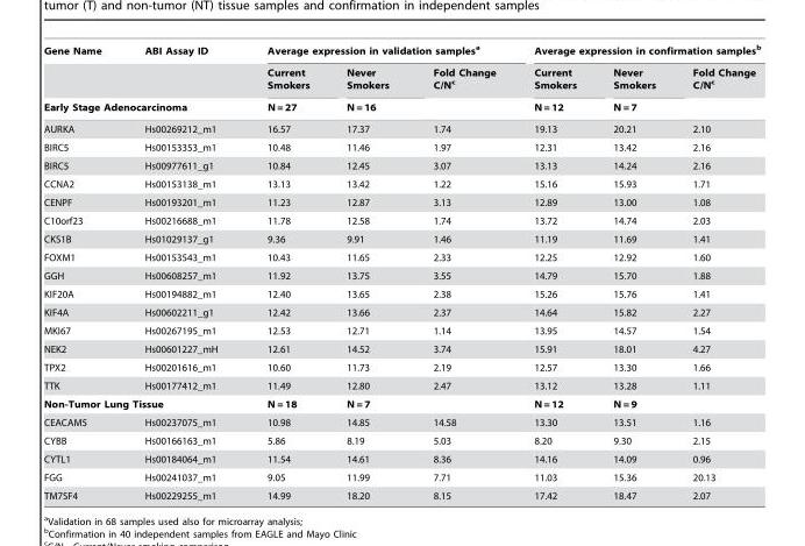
<table><thead><tr><td rowspan="2">Gene Name</td><td rowspan="2">ABI Assay ID</td><td colspan="3">Average expression in validation samples<sup>a</sup></td><td colspan="3">Average expression in confirmation samples<sup>b</sup></td></tr><tr><td rowspan="2">Current Smokers N = 27</td><td rowspan="2">Never Smokers N = 16</td><td rowspan="2">Fold Change C/N<sup>c</sup></td><td rowspan="2">Current Smokers N = 12</td><td rowspan="2">Never Smokers N = 7</td><td rowspan="2">Fold Change C/N<sup>c</sup></td></tr><tr><td colspan="2">Early Stage Adenocarcinoma</td></tr></thead><tbody><tr><td>AURKA</td><td>Hs00269212_m1</td><td>16.57</td><td>17.37</td><td>1.74</td><td>19.13</td><td>20.21</td><td>2.10</td></tr><tr><td>BIRC5</td><td>Hs00153353_m1</td><td>10.48</td><td>11.46</td><td>1.97</td><td>12.31</td><td>13.42</td><td>2.16</td></tr><tr><td>BIRC5</td><td>Hs00977611_g1</td><td>10.84</td><td>12.45</td><td>3.07</td><td>13.13</td><td>14.24</td><td>2.16</td></tr><tr><td>CCNA2</td><td>Hs00153138_m1</td><td>13.13</td><td>13.42</td><td>1.22</td><td>15.16</td><td>15.93</td><td>1.71</td></tr><tr><td>CENPF</td><td>Hs00193201_m1</td><td>11.23</td><td>12.87</td><td>3.13</td><td>12.89</td><td>13.00</td><td>1.08</td></tr><tr><td>C10orf23</td><td>Hs00216688_m1</td><td>11.78</td><td>12.58</td><td>1.74</td><td>13.72</td><td>14.74</td><td>2.03</td></tr><tr><td>CKS1B</td><td>Hs01029137_g1</td><td>9.36</td><td>9.91</td><td>1.46</td><td>11.19</td><td>11.69</td><td>1.41</td></tr><tr><td>FOXM1</td><td>Hs00153543_m1</td><td>10.43</td><td>11.65</td><td>2.33</td><td>12.25</td><td>12.92</td><td>1.60</td></tr><tr><td>GGH</td><td>Hs00608257_m1</td><td>11.92</td><td>13.75</td><td>3.55</td><td>14.79</td><td>15.70</td><td>1.88</td></tr><tr><td>KIF20A</td><td>Hs00194882_m1</td><td>12.40</td><td>13.65</td><td>2.38</td><td>15.26</td><td>15.76</td><td>1.41</td></tr><tr><td>KIF4A</td><td>Hs00602211_g1</td><td>12.42</td><td>13.66</td><td>2.37</td><td>14.64</td><td>15.82</td><td>2.27</td></tr><tr><td>MKI67</td><td>Hs00267195_m1</td><td>12.53</td><td>12.71</td><td>1.14</td><td>13.95</td><td>14.57</td><td>1.54</td></tr><tr><td>NEK2</td><td>Hs00601227_mH</td><td>12.61</td><td>14.52</td><td>3.74</td><td>15.91</td><td>18.01</td><td>4.27</td></tr><tr><td>TPX2</td><td>Hs00201616_m1</td><td>10.60</td><td>11.73</td><td>2.19</td><td>12.57</td><td>13.30</td><td>1.66</td></tr><tr><td>TTK</td><td>Hs00177412_m1</td><td>11.49</td><td>12.80</td><td>2.47</td><td>13.12</td><td>13.28</td><td>1.11</td></tr><tr><td colspan="2">Non-Tumor Lung Tissue</td><td>N = 18</td><td>N = 7</td><td></td><td>N = 12</td><td>N = 9</td><td></td></tr><tr><td>CEACAM5</td><td>Hs00237075_m1</td><td>10.98</td><td>14.85</td><td>14.58</td><td>13.30</td><td>13.51</td><td>1.16</td></tr><tr><td>CYBB</td><td>Hs00166163_m1</td><td>5.86</td><td>8.19</td><td>5.03</td><td>8.20</td><td>9.30</td><td>2.15</td></tr><tr><td>CYTL1</td><td>Hs00184064_m1</td><td>11.54</td><td>14.61</td><td>8.36</td><td>14.16</td><td>14.09</td><td>0.96</td></tr><tr><td>FGG</td><td>Hs00241037_m1</td><td>9.05</td><td>11.99</td><td>7.71</td><td>11.03</td><td>15.36</td><td>20.13</td></tr><tr><td>TM7SF4</td><td>Hs00229255_m1</td><td>14.99</td><td>18.20</td><td>8.15</td><td>17.42</td><td>18.47</td><td>2.07</td></tr></tbody></table>